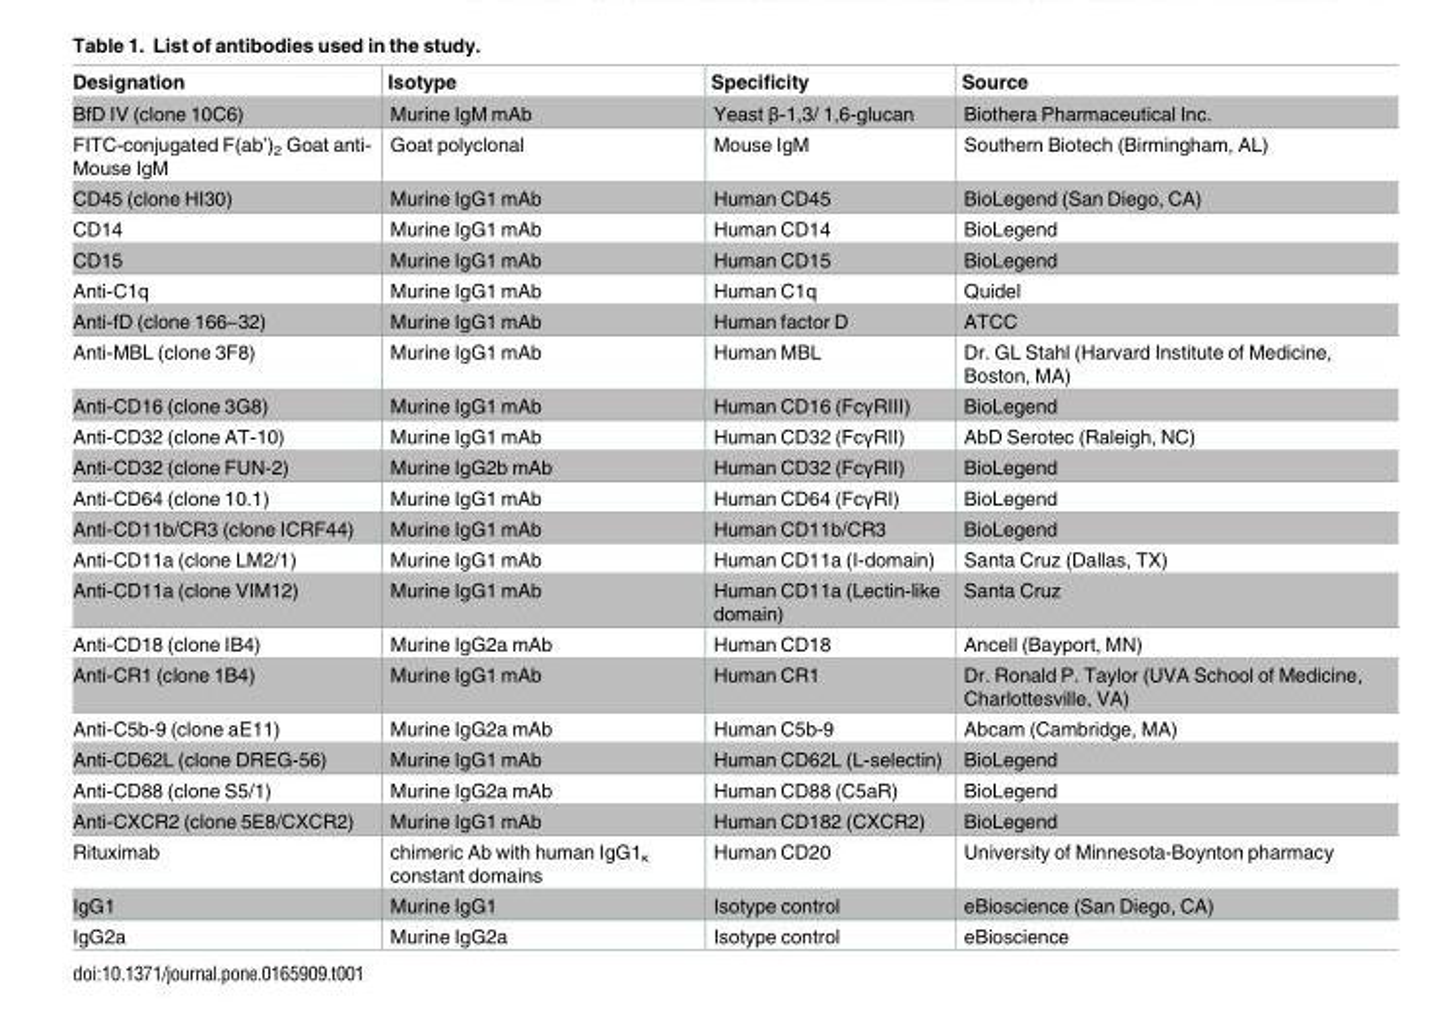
<table><thead><tr><td>Designation</td><td>Isotype</td><td>Specificity</td><td>Source</td></tr></thead><tbody><tr><td>BfD IV (clone 10C6)</td><td>Murine IgM mAb</td><td>Yeast β-1,3/ 1,6-glucan</td><td>Biothera Pharmaceutical Inc.</td></tr><tr><td>FITC-conjugated F(ab’)<sub>2</sub> Goat anti- Mouse IgM</td><td>Goat polyclonal</td><td>Mouse IgM</td><td>Southern Biotech (Birmingham, AL)</td></tr><tr><td>CD45 (clone HI30)</td><td>Murine IgG1 mAb</td><td>Human CD45</td><td>BioLegend (San Diego, CA)</td></tr><tr><td>CD14</td><td>Murine IgG1 mAb</td><td>Human CD14</td><td>BioLegend</td></tr><tr><td>CD15</td><td>Murine IgG1 mAb</td><td>Human CD15</td><td>BioLegend</td></tr><tr><td>Anti-C1q</td><td>Murine IgG1 mAb</td><td>Human C1q</td><td>Quidel</td></tr><tr><td>Anti-fD (clone 166–32)</td><td>Murine IgG1 mAb</td><td>Human factor D</td><td>ATCC</td></tr><tr><td>Anti-MBL (clone 3F8)</td><td>Murine IgG1 mAb</td><td>Human MBL</td><td>Dr. GL Stahl (Harvard Institute of Medicine, Boston, MA)</td></tr><tr><td>Anti-CD16 (clone 3G8)</td><td>Murine IgG1 mAb</td><td>Human CD16 (FcγRIII)</td><td>BioLegend</td></tr><tr><td>Anti-CD32 (clone AT-10)</td><td>Murine IgG1 mAb</td><td>Human CD32 (FcγRII)</td><td>AbD Serotec (Raleigh, NC)</td></tr><tr><td>Anti-CD32 (clone FUN-2)</td><td>Murine IgG2b mAb</td><td>Human CD32 (FcγRII)</td><td>BioLegend</td></tr><tr><td>Anti-CD64 (clone 10.1)</td><td>Murine IgG1 mAb</td><td>Human CD64 (FcγRI)</td><td>BioLegend</td></tr><tr><td>Anti-CD11b/CR3 (clone ICRF44)</td><td>Murine IgG1 mAb</td><td>Human CD11b/CR3</td><td>BioLegend</td></tr><tr><td>Anti-CD11a (clone LM2/1)</td><td>Murine IgG1 mAb</td><td>Human CD11a (I-domain)</td><td>Santa Cruz (Dallas, TX)</td></tr><tr><td>Anti-CD11a (clone VIM12)</td><td>Murine IgG1 mAb</td><td>Human CD11a (Lectin-like domain)</td><td>Santa Cruz</td></tr><tr><td>Anti-CD18 (clone IB4)</td><td>Murine IgG2a mAb</td><td>Human CD18</td><td>Ancell (Bayport, MN)</td></tr><tr><td>Anti-CR1 (clone 1B4)</td><td>Murine IgG1 mAb</td><td>Human CR1</td><td>Dr. Ronald P. Taylor (UVA School of Medicine, Charlottesville, VA)</td></tr><tr><td>Anti-C5b-9 (clone aE11)</td><td>Murine IgG2a mAb</td><td>Human C5b-9</td><td>Abcam (Cambridge, MA)</td></tr><tr><td>Anti-CD62L (clone DREG-56)</td><td>Murine IgG1 mAb</td><td>Human CD62L (L-selectin)</td><td>BioLegend</td></tr><tr><td>Anti-CD88 (clone S5/1)</td><td>Murine IgG2a mAb</td><td>Human CD88 (C5aR)</td><td>BioLegend</td></tr><tr><td>Anti-CXCR2 (clone 5E8/CXCR2)</td><td>Murine IgG1 mAb</td><td>Human CD182 (CXCR2)</td><td>BioLegend</td></tr><tr><td>Rituximab</td><td>chimeric Ab with human IgG1<sub>κ</sub> constant domains</td><td>Human CD20</td><td>University of Minnesota-Boynton pharmacy</td></tr><tr><td>IgG1</td><td>Murine IgG1</td><td>Isotype control</td><td>eBioscience (San Diego, CA)</td></tr><tr><td>IgG2a</td><td>Murine IgG2a</td><td>Isotype control</td><td>eBioscience</td></tr></tbody></table>